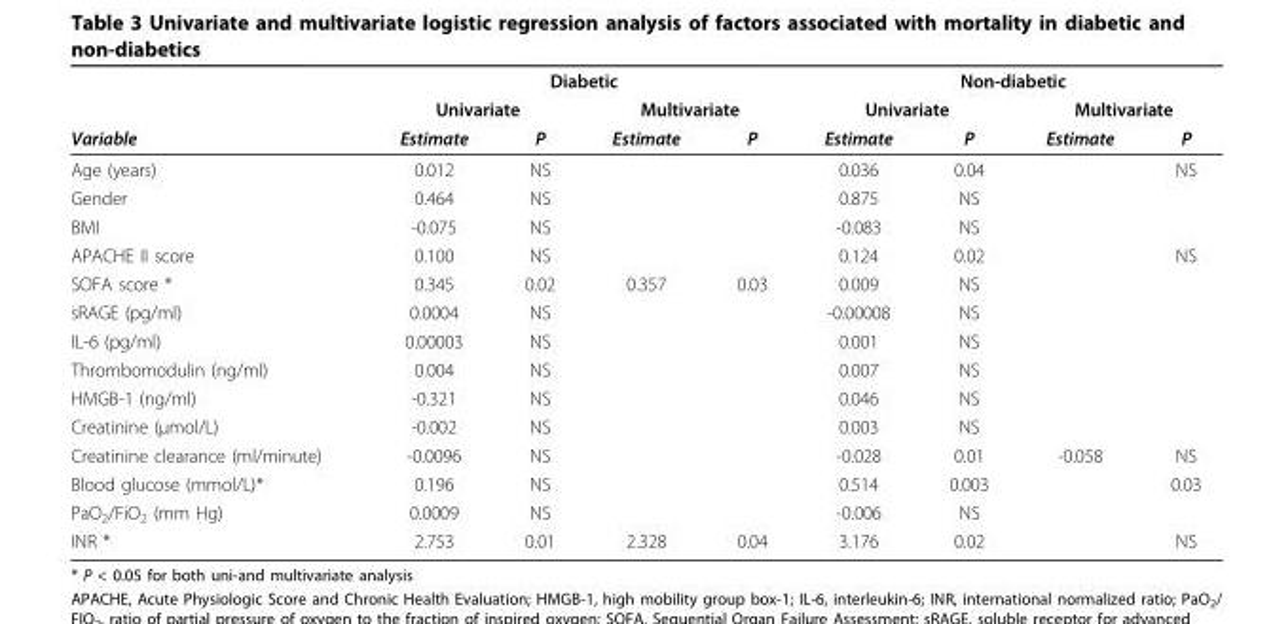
<table><thead><tr><td rowspan="3">Variable</td><td colspan="4">Diabetic</td><td colspan="4">Non-diabetic</td></tr><tr><td colspan="2">Univariate</td><td colspan="2">Multivariate</td><td colspan="2">Univariate</td><td colspan="2">Multivariate</td></tr><tr><td>Estimate</td><td>P</td><td>Estimate</td><td>P</td><td>Estimate</td><td>P</td><td>Estimate</td><td>P</td></tr></thead><tbody><tr><td>Age (years)</td><td>0.012</td><td>NS</td><td></td><td></td><td>0.036</td><td>0.04</td><td></td><td>NS</td></tr><tr><td>Gender</td><td>0.464</td><td>NS</td><td></td><td></td><td>0.875</td><td>NS</td><td></td><td></td></tr><tr><td>BMI</td><td>-0.075</td><td>NS</td><td></td><td></td><td>-0.083</td><td>NS</td><td></td><td></td></tr><tr><td>APACHE II score</td><td>0.100</td><td>NS</td><td></td><td></td><td>0.124</td><td>0.02</td><td></td><td>NS</td></tr><tr><td>SOFA score *</td><td>0.345</td><td>0.02</td><td>0.357</td><td>0.03</td><td>0.009</td><td>NS</td><td></td><td></td></tr><tr><td>sRAGE (pg/ml)</td><td>0.0004</td><td>NS</td><td></td><td></td><td>-0.00008</td><td>NS</td><td></td><td></td></tr><tr><td>IL-6 (pg/ml)</td><td>0.00003</td><td>NS</td><td></td><td></td><td>0.001</td><td>NS</td><td></td><td></td></tr><tr><td>Thrombomodulin (ng/ml)</td><td>0.004</td><td>NS</td><td></td><td></td><td>0.007</td><td>NS</td><td></td><td></td></tr><tr><td>HMGB-1 (ng/ml)</td><td>-0.321</td><td>NS</td><td></td><td></td><td>0.046</td><td>NS</td><td></td><td></td></tr><tr><td>Creatinine (μmol/L)</td><td>-0.002</td><td>NS</td><td></td><td></td><td>0.003</td><td>NS</td><td></td><td></td></tr><tr><td>Creatinine clearance (ml/minute)</td><td>-0.0096</td><td>NS</td><td></td><td></td><td>-0.028</td><td>0.01</td><td>-0.058</td><td>NS</td></tr><tr><td>Blood glucose (mmol/L)*</td><td>0.196</td><td>NS</td><td></td><td></td><td>0.514</td><td>0.003</td><td></td><td>0.03</td></tr><tr><td>PaO<sub>2</sub>/FiO<sub>2</sub> (mm Hg)</td><td>0.0009</td><td>NS</td><td></td><td></td><td>-0.006</td><td>NS</td><td></td><td></td></tr><tr><td>INR *</td><td>2.753</td><td>0.01</td><td>2.328</td><td>0.04</td><td>3.176</td><td>0.02</td><td></td><td>NS</td></tr></tbody></table>